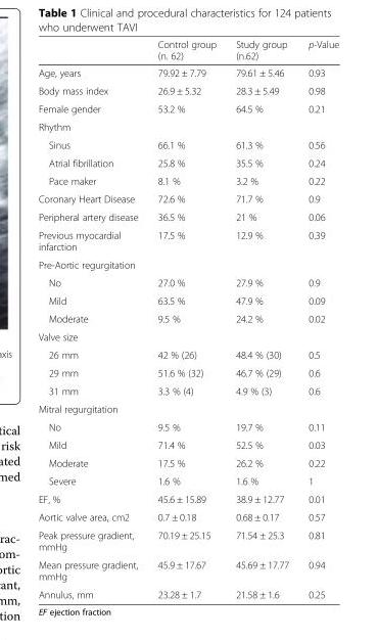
<table><thead><tr><td></td><td>Control group (n. 62)</td><td>Study group (n.62)</td><td>p-Value</td></tr></thead><tbody><tr><td>Age, years</td><td>79.92 ± 7.79</td><td>79.61 ± 5.46</td><td>0.93</td></tr><tr><td>Body mass index</td><td>26.9 ± 5.32</td><td>28.3 ± 5.49</td><td>0.98</td></tr><tr><td>Female gender</td><td>53.2 %</td><td>64.5 %</td><td>0.21</td></tr><tr><td colspan="4">Rhythm</td></tr><tr><td>Sinus</td><td>66.1 %</td><td>61.3 %</td><td>0.56</td></tr><tr><td>Atrial fibrillation</td><td>25.8 %</td><td>35.5 %</td><td>0.24</td></tr><tr><td>Pace maker</td><td>8.1 %</td><td>3.2 %</td><td>0.22</td></tr><tr><td>Coronary Heart Disease</td><td>72.6 %</td><td>71.7 %</td><td>0.9</td></tr><tr><td>Peripheral artery disease</td><td>36.5 %</td><td>21 %</td><td>0.06</td></tr><tr><td>Previous myocardial infarction</td><td>17.5 %</td><td>12.9 %</td><td>0.39</td></tr><tr><td colspan="4">Pre-Aortic regurgitation</td></tr><tr><td>No</td><td>27.0 %</td><td>27.9 %</td><td>0.9</td></tr><tr><td>Mild</td><td>63.5 %</td><td>47.9 %</td><td>0.09</td></tr><tr><td>Moderate</td><td>9.5 %</td><td>24.2 %</td><td>0.02</td></tr><tr><td colspan="4">Valve size</td></tr><tr><td>26 mm</td><td>42 % (26)</td><td>48.4 % (30)</td><td>0.5</td></tr><tr><td>29 mm</td><td>51.6 % (32)</td><td>46.7 % (29)</td><td>0.6</td></tr><tr><td>31 mm</td><td>3.3 % (4)</td><td>4.9 % (3)</td><td>0.6</td></tr><tr><td colspan="4">Mitral regurgitation</td></tr><tr><td>No</td><td>9.5 %</td><td>19.7 %</td><td>0.11</td></tr><tr><td>Mild</td><td>71.4 %</td><td>52.5 %</td><td>0.03</td></tr><tr><td>Moderate</td><td>17.5 %</td><td>26.2 %</td><td>0.22</td></tr><tr><td>Severe</td><td>1.6 %</td><td>1.6 %</td><td>1</td></tr><tr><td>EF, %</td><td>45.6 ± 15.89</td><td>38.9 ± 12.77</td><td>0.01</td></tr><tr><td>Aortic valve area, cm2</td><td>0.7 ± 0.18</td><td>0.68 ± 0.17</td><td>0.57</td></tr><tr><td>Peak pressure gradient, mmHg</td><td>70.19 ± 25.15</td><td>71.54 ± 25.3</td><td>0.81</td></tr><tr><td>Mean pressure gradient, mmHg</td><td>45.9 ± 17.67</td><td>45.69 ± 17.77</td><td>0.94</td></tr><tr><td>Annulus, mm</td><td>23.28 ± 1.7</td><td>21.58 ± 1.6</td><td>0.25</td></tr></tbody></table>